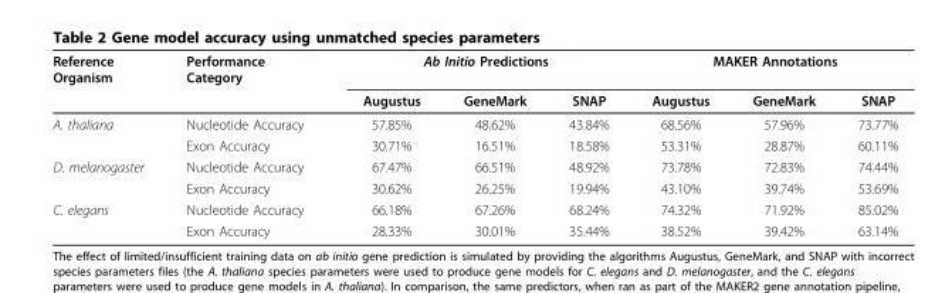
<table><thead><tr><td rowspan="2">Reference Organism</td><td rowspan="2">Performance Category</td><td colspan="3">Ab Initio Predictions</td><td colspan="3">MAKER Annotations</td></tr><tr><td>Augustus</td><td>GeneMark</td><td>SNAP</td><td>Augustus</td><td>GeneMark</td><td>SNAP</td></tr></thead><tbody><tr><td rowspan="2">A. thaliana</td><td>Nucleotide Accuracy</td><td>57.85%</td><td>48.62%</td><td>43.84%</td><td>68.56%</td><td>57.96%</td><td>73.77%</td></tr><tr><td>Exon Accuracy</td><td>30.71%</td><td>16.51%</td><td>18.58%</td><td>53.31%</td><td>28.87%</td><td>60.11%</td></tr><tr><td rowspan="2">D. melanogaster</td><td>Nucleotide Accuracy</td><td>67.47%</td><td>66.51%</td><td>48.92%</td><td>73.78%</td><td>72.83%</td><td>74.44%</td></tr><tr><td>Exon Accuracy</td><td>30.62%</td><td>26.25%</td><td>19.94%</td><td>43.10%</td><td>39.74%</td><td>53.69%</td></tr><tr><td rowspan="2">C. elegans</td><td>Nucleotide Accuracy</td><td>66.18%</td><td>67.26%</td><td>68.24%</td><td>74.32%</td><td>71.92%</td><td>85.02%</td></tr><tr><td>Exon Accuracy</td><td>28.33%</td><td>30.01%</td><td>35.44%</td><td>38.52%</td><td>39.42%</td><td>63.14%</td></tr></tbody></table>